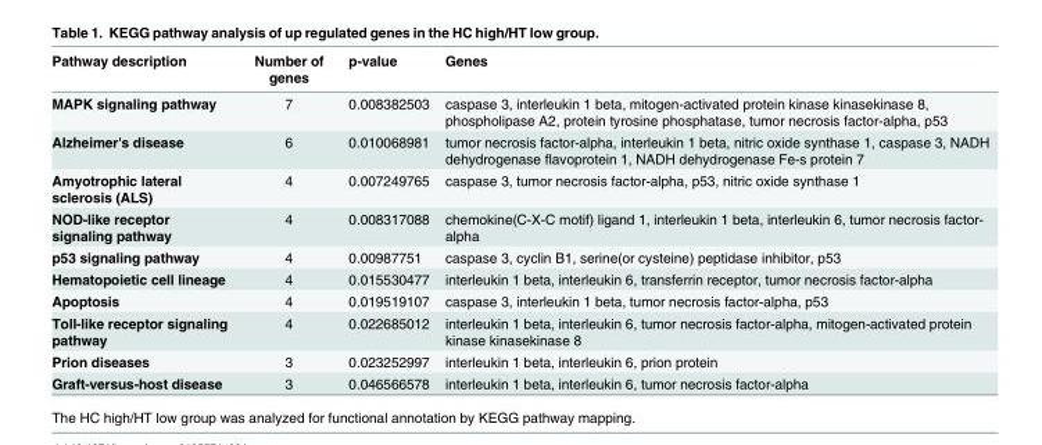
<table><thead><tr><td>Pathway description</td><td>Number of genes</td><td>p-value</td><td>Genes</td></tr></thead><tbody><tr><td>MAPK signaling pathway</td><td>7</td><td>0.008382503</td><td>caspase 3, interleukin 1 beta, mitogen-activated protein kinase kinasekinase 8, phospholipase A2, protein tyrosine phosphatase, tumor necrosis factor-alpha, p53</td></tr><tr><td>Alzheimer&#x27;s disease</td><td>6</td><td>0.010068981</td><td>tumor necrosis factor-alpha, interleukin 1 beta, nitric oxide synthase 1, caspase 3, NADH dehydrogenase flavoprotein 1, NADH dehydrogenase Fe-s protein 7</td></tr><tr><td>Amyotrophic lateral sclerosis (ALS)</td><td>4</td><td>0.007249765</td><td>caspase 3, tumor necrosis factor-alpha, p53, nitric oxide synthase 1</td></tr><tr><td>NOD-like receptor signaling pathway</td><td>4</td><td>0.008317088</td><td>chemokine(C-X-C motif) ligand 1, interleukin 1 beta, interleukin 6, tumor necrosis factor- alpha</td></tr><tr><td>p53 signaling pathway</td><td>4</td><td>0.00987751</td><td>caspase 3, cyclin B1, serine(or cysteine) peptidase inhibitor, p53</td></tr><tr><td>Hematopoietic cell lineage</td><td>4</td><td>0.015530477</td><td>interleukin 1 beta, interleukin 6, transferrin receptor, tumor necrosis factor-alpha</td></tr><tr><td>Apoptosis</td><td>4</td><td>0.019519107</td><td>caspase 3, interleukin 1 beta, tumor necrosis factor-alpha, p53</td></tr><tr><td>Toll-like receptor signaling pathway</td><td>4</td><td>0.022685012</td><td>interleukin 1 beta, interleukin 6, tumor necrosis factor-alpha, mitogen-activated protein kinase kinasekinase 8</td></tr><tr><td>Prion diseases</td><td>3</td><td>0.023252997</td><td>interleukin 1 beta, interleukin 6, prion protein</td></tr><tr><td>Graft-versus-host disease</td><td>3</td><td>0.046566578</td><td>interleukin 1 beta, interleukin 6, tumor necrosis factor-alpha</td></tr></tbody></table>